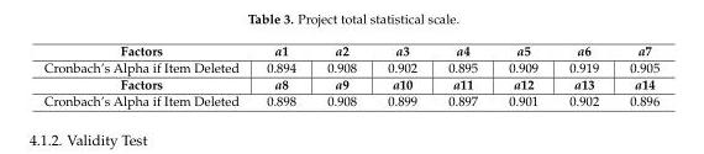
<table><thead><tr><td>Factors</td><td>a1</td><td>a2</td><td>a3</td><td>a4</td><td>a5</td><td>a6</td><td>a7</td></tr></thead><tbody><tr><td>Cronbach’s Alpha if Item Deleted</td><td>0.894</td><td>0.908</td><td>0.902</td><td>0.895</td><td>0.909</td><td>0.919</td><td>0.905</td></tr><tr><td>Factors</td><td>a8</td><td>a9</td><td>a10</td><td>a11</td><td>a12</td><td>a13</td><td>a14</td></tr><tr><td>Cronbach’s Alpha if Item Deleted</td><td>0.898</td><td>0.908</td><td>0.899</td><td>0.897</td><td>0.901</td><td>0.902</td><td>0.896</td></tr></tbody></table>